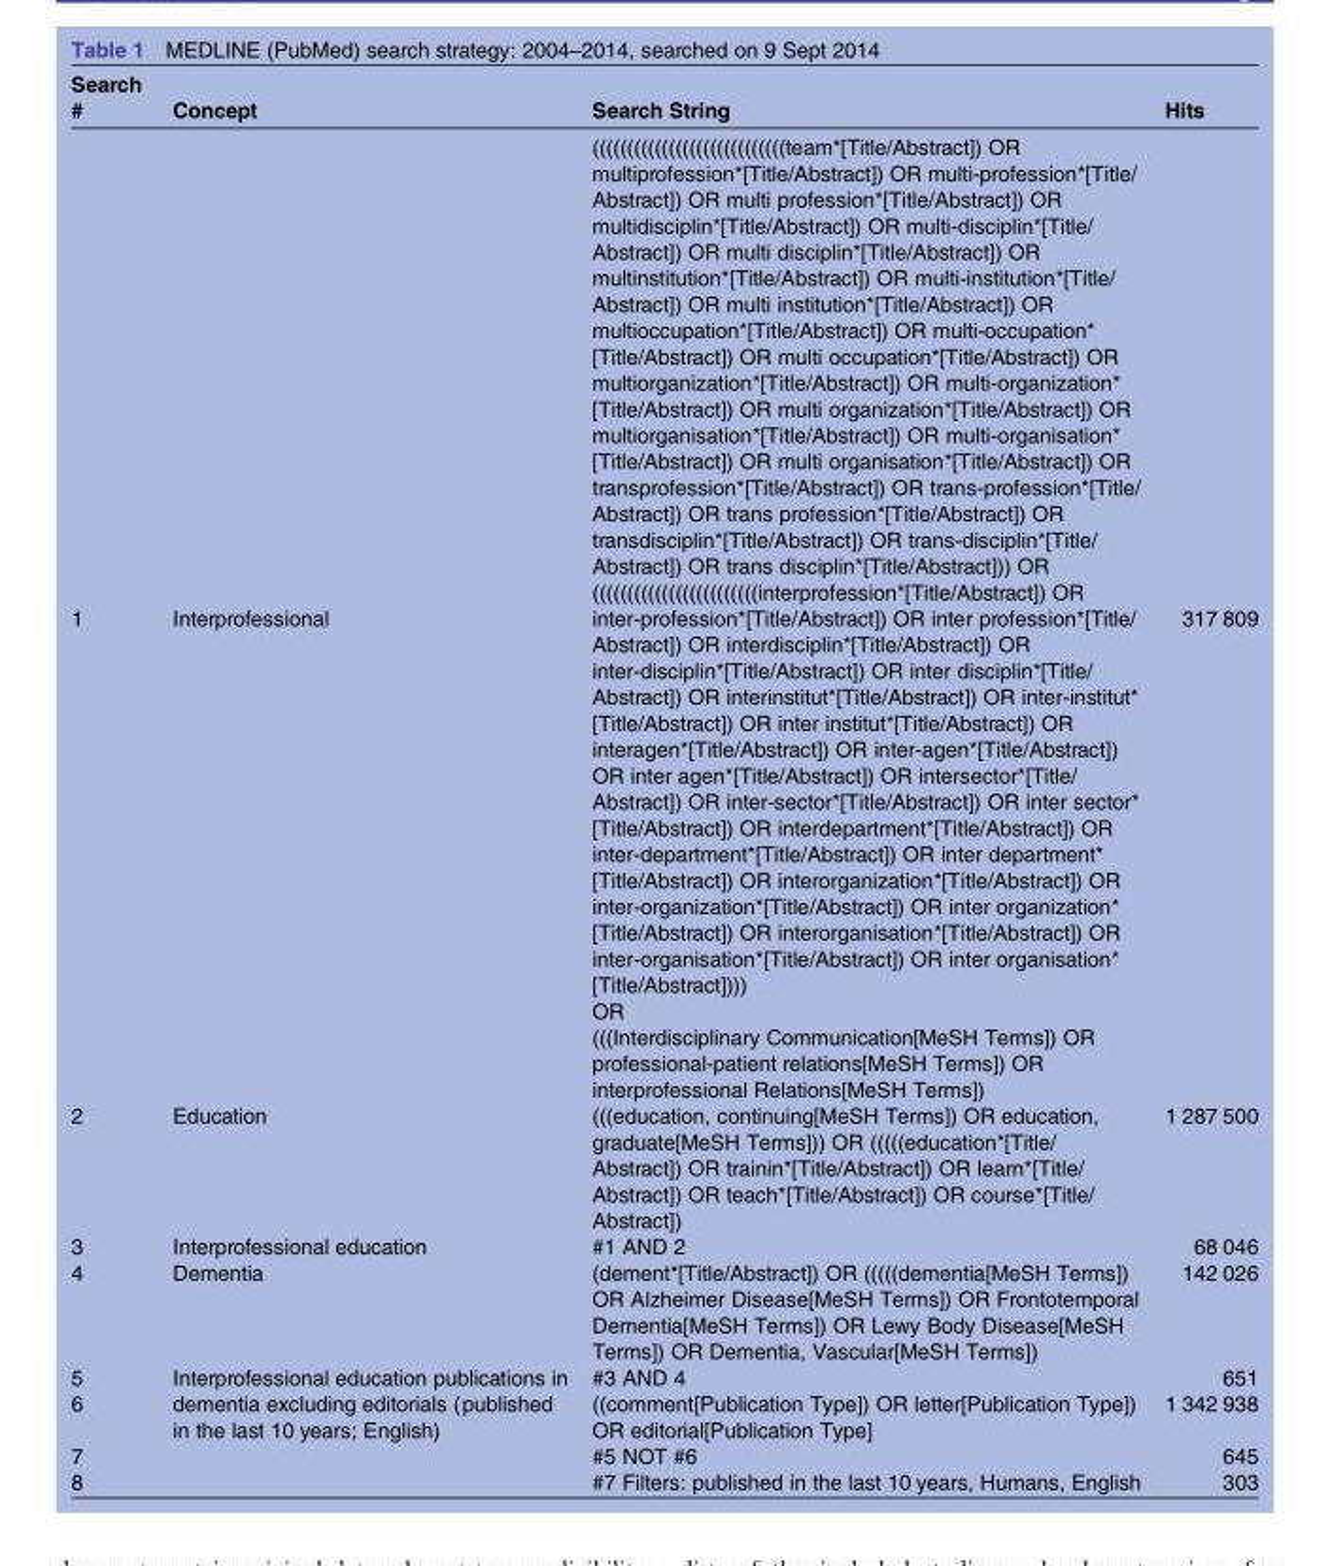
<table><thead><tr><td>Search #</td><td>Concept</td><td>Search String</td><td>Hits</td></tr></thead><tbody><tr><td rowspan="3">1</td><td rowspan="3">Interprofessional</td><td>((((((((((((((((((((((((((((team*[Title/Abstract]) OR multiprofession*[Title/Abstract]) OR multi-profession*[Title/ Abstract]) OR multi profession*[Title/Abstract]) OR multidisciplin*[Title/Abstract]) OR multi-disciplin*[Title/ Abstract]) OR multi disciplin*[Title/Abstract]) OR multinstitution*[Title/Abstract]) OR multi-institution*[Title/ Abstract]) OR multi institution*[Title/Abstract]) OR multioccupation*[Title/Abstract]) OR multi-occupation* [Title/Abstract]) OR multi occupation*[Title/Abstract]) OR multiorganization*[Title/Abstract]) OR multi-organization* [Title/Abstract]) OR multi organization*[Title/Abstract]) OR multiorganisation*[Title/Abstract]) OR multi-organisation* [Title/Abstract]) OR multi organisation*[Title/Abstract]) OR transprofession*[Title/Abstract]) OR trans-profession*[Title/ Abstract]) OR trans profession*[Title/Abstract]) OR transdisciplin*[Title/Abstract]) OR trans-disciplin*[Title/ Abstract]) OR trans disciplin*[Title/Abstract])) OR ((((((((((((((((((((((((interprofession*[Title/Abstract]) OR inter-profession*[Title/Abstract]) OR inter profession*[Title/ Abstract]) OR interdisciplin*[Title/Abstract]) OR inter-disciplin*[Title/Abstract]) OR inter disciplin*[Title/ Abstract]) OR interinstitut*[Title/Abstract]) OR inter-institut* [Title/Abstract]) OR inter institut*[Title/Abstract]) OR interagen*[Title/Abstract]) OR inter-agen*[Title/Abstract]) OR inter agen*[Title/Abstract]) OR intersector*[Title/ Abstract]) OR inter-sector*[Title/Abstract]) OR inter sector* [Title/Abstract]) OR interdepartment*[Title/Abstract]) OR inter-department*[Title/Abstract]) OR inter department* [Title/Abstract]) OR interorganization*[Title/Abstract]) OR inter-organization*[Title/Abstract]) OR inter organization* [Title/Abstract]) OR interorganisation*[Title/Abstract]) OR inter-organisation*[Title/Abstract]) OR inter organisation* [Title/Abstract])))</td><td rowspan="3">317 809</td></tr><tr><td>OR</td></tr><tr><td>(((Interdisciplinary Communication[MeSH Terms]) OR professional-patient relations[MeSH Terms]) OR interprofessional Relations[MeSH Terms])</td></tr><tr><td>2</td><td>Education</td><td>(((education, continuing[MeSH Terms]) OR education, graduate[MeSH Terms])) OR (((((education*[Title/ Abstract]) OR trainin*[Title/Abstract]) OR learn*[Title/ Abstract]) OR teach*[Title/Abstract]) OR course*[Title/ Abstract])</td><td>1 287 500</td></tr><tr><td>3</td><td>Interprofessional education</td><td>#1 AND 2</td><td>68 046</td></tr><tr><td>4</td><td>Dementia</td><td>(dement*[Title/Abstract]) OR (((((dementia[MeSH Terms]) OR Alzheimer Disease[MeSH Terms]) OR Frontotemporal Dementia[MeSH Terms]) OR Lewy Body Disease[MeSH Terms]) OR Dementia, Vascular[MeSH Terms])</td><td>142 026</td></tr><tr><td>5</td><td rowspan="4">Interprofessional education publications in dementia excluding editorials (published in the last 10 years; English)</td><td>#3 AND 4</td><td>651</td></tr><tr><td>6</td><td>((comment[Publication Type]) OR letter[Publication Type]) OR editorial[Publication Type]</td><td>1 342 938</td></tr><tr><td>7</td><td>#5 NOT #6</td><td>645</td></tr><tr><td>8</td><td>#7 Filters: published in the last 10 years, Humans, English</td><td>303</td></tr></tbody></table>